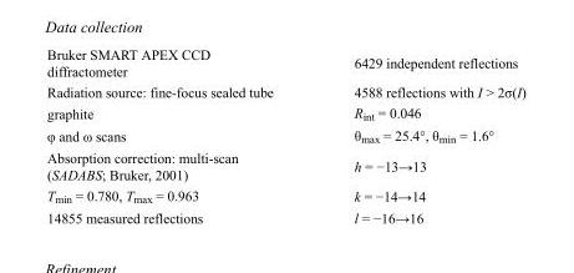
<table><tbody><tr><td>Bruker SMART APEX CCD diffractometer</td><td>6429 independent reflections</td></tr><tr><td>Radiation source: fine-focus sealed tube</td><td>4588 reflections with I &gt; 2σ(I)</td></tr><tr><td>graphite</td><td>R<sub>int</sub> = 0.046</td></tr><tr><td>φ and ω scans</td><td>θ<sub>max</sub> = 25.4°, θ<sub>min</sub> = 1.6°</td></tr><tr><td>Absorption correction: multi-scan (SADABS; Bruker, 2001)</td><td>h = −13→13</td></tr><tr><td>T<sub>min</sub> = 0.780, T<sub>max</sub> = 0.963</td><td>k = −14→14</td></tr><tr><td>14855 measured reflections</td><td>l = −16→16</td></tr></tbody></table>